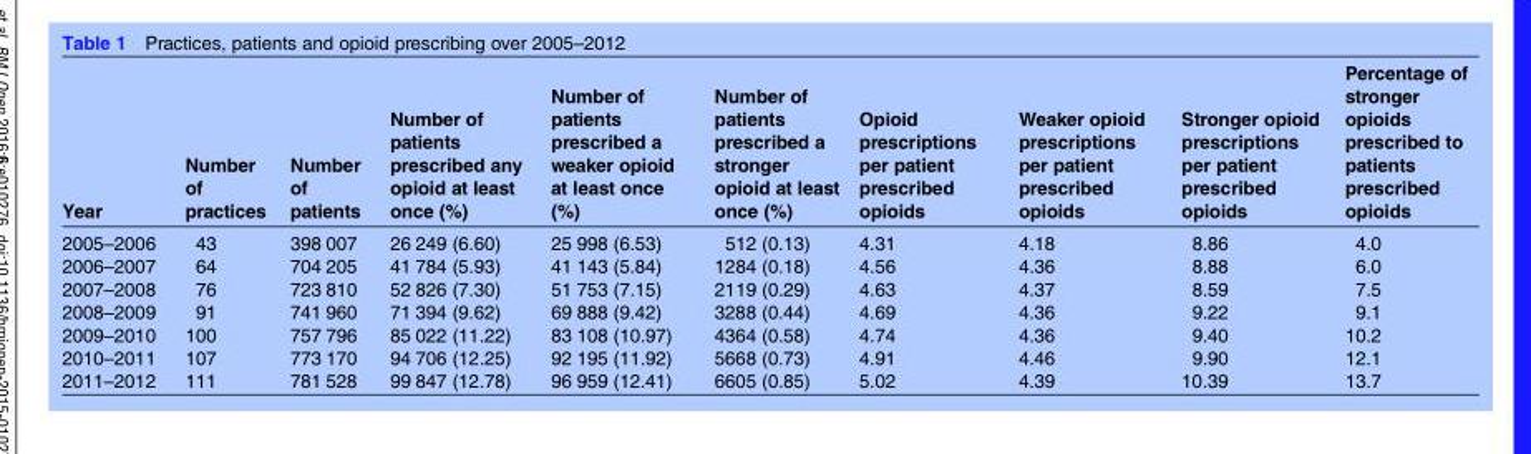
<table><thead><tr><td>Year</td><td>Number of practices</td><td>Number of patients</td><td>Number of patients prescribed any opioid at least once (%)</td><td>Number of patients prescribed a weaker opioid at least once (%)</td><td>Number of patients prescribed a stronger opioid at least once (%)</td><td>Opioid prescriptions per patient prescribed opioids</td><td>Weaker opioid prescriptions per patient prescribed opioids</td><td>Stronger opioid prescriptions per patient prescribed opioids</td><td>Percentage of stronger opioids prescribed to patients prescribed opioids</td></tr></thead><tbody><tr><td>2005–2006</td><td>43</td><td>398 007</td><td>26 249 (6.60)</td><td>25 998 (6.53)</td><td>512 (0.13)</td><td>4.31</td><td>4.18</td><td>8.86</td><td>4.0</td></tr><tr><td>2006–2007</td><td>64</td><td>704 205</td><td>41 784 (5.93)</td><td>41 143 (5.84)</td><td>1284 (0.18)</td><td>4.56</td><td>4.36</td><td>8.88</td><td>6.0</td></tr><tr><td>2007–2008</td><td>76</td><td>723 810</td><td>52 826 (7.30)</td><td>51 753 (7.15)</td><td>2119 (0.29)</td><td>4.63</td><td>4.37</td><td>8.59</td><td>7.5</td></tr><tr><td>2008–2009</td><td>91</td><td>741 960</td><td>71 394 (9.62)</td><td>69 888 (9.42)</td><td>3288 (0.44)</td><td>4.69</td><td>4.36</td><td>9.22</td><td>9.1</td></tr><tr><td>2009–2010</td><td>100</td><td>757 796</td><td>85 022 (11.22)</td><td>83 108 (10.97)</td><td>4364 (0.58)</td><td>4.74</td><td>4.36</td><td>9.40</td><td>10.2</td></tr><tr><td>2010–2011</td><td>107</td><td>773 170</td><td>94 706 (12.25)</td><td>92 195 (11.92)</td><td>5668 (0.73)</td><td>4.91</td><td>4.46</td><td>9.90</td><td>12.1</td></tr><tr><td>2011–2012</td><td>111</td><td>781 528</td><td>99 847 (12.78)</td><td>96 959 (12.41)</td><td>6605 (0.85)</td><td>5.02</td><td>4.39</td><td>10.39</td><td>13.7</td></tr></tbody></table>